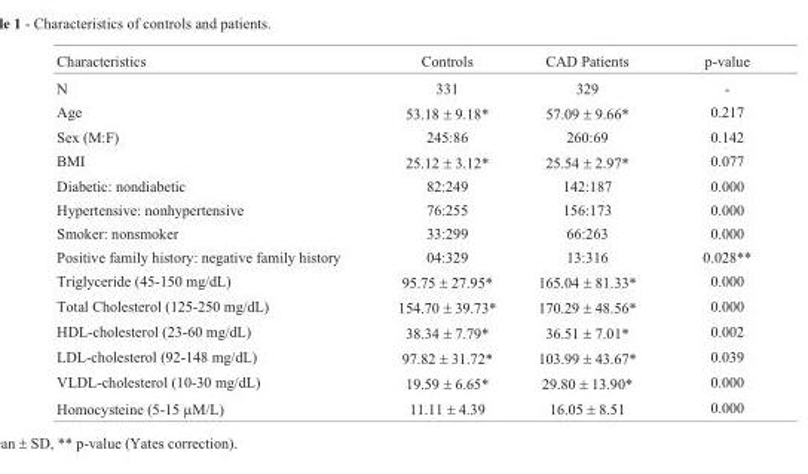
<table><thead><tr><td>Characteristics</td><td>Controls</td><td>CAD Patients</td><td>p-value</td></tr></thead><tbody><tr><td>N</td><td>331</td><td>329</td><td>-</td></tr><tr><td>Age</td><td>53.18 ± 9.18*</td><td>57.09 ± 9.66*</td><td>0.217</td></tr><tr><td>Sex (M:F)</td><td>245:86</td><td>260:69</td><td>0.142</td></tr><tr><td>BMI</td><td>25.12 ± 3.12*</td><td>25.54 ± 2.97*</td><td>0.077</td></tr><tr><td>Diabetic: nondiabetic</td><td>82:249</td><td>142:187</td><td>0.000</td></tr><tr><td>Hypertensive: nonhypertensive</td><td>76:255</td><td>156:173</td><td>0.000</td></tr><tr><td>Smoker: nonsmoker</td><td>33:299</td><td>66:263</td><td>0.000</td></tr><tr><td>Positive family history: negative family history</td><td>04:329</td><td>13:316</td><td>0.028**</td></tr><tr><td>Triglyceride (45-150 mg/dL)</td><td>95.75 ± 27.95*</td><td>165.04 ± 81.33*</td><td>0.000</td></tr><tr><td>Total Cholesterol (125-250 mg/dL)</td><td>154.70 ± 39.73*</td><td>170.29 ± 48.56*</td><td>0.000</td></tr><tr><td>HDL-cholesterol (23-60 mg/dL)</td><td>38.34 ± 7.79*</td><td>36.51 ± 7.01*</td><td>0.002</td></tr><tr><td>LDL-cholesterol (92-148 mg/dL)</td><td>97.82 ± 31.72*</td><td>103.99 ± 43.67*</td><td>0.039</td></tr><tr><td>VLDL-cholesterol (10-30 mg/dL)</td><td>19.59 ± 6.65*</td><td>29.80 ± 13.90*</td><td>0.000</td></tr><tr><td>Homocysteine (5-15 μM/L)</td><td>11.11 ± 4.39</td><td>16.05 ± 8.51</td><td>0.000</td></tr></tbody></table>